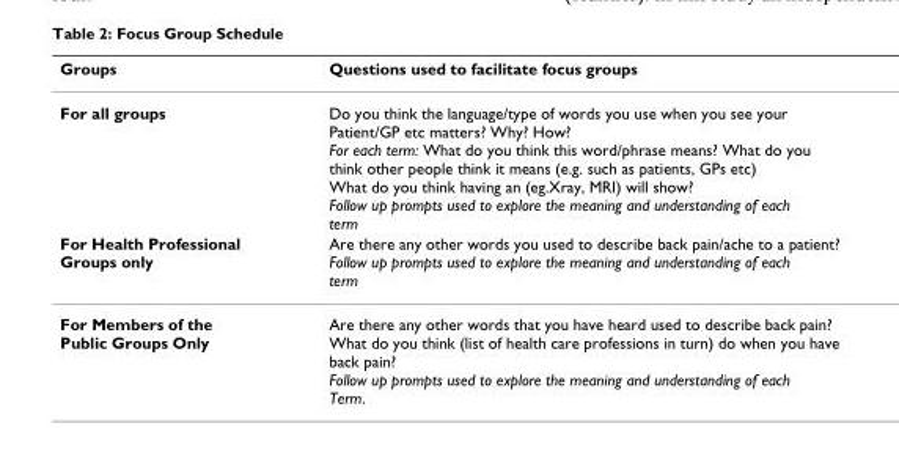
<table><thead><tr><td>Groups</td><td>Questions used to facilitate focus groups</td></tr></thead><tbody><tr><td>For all groups</td><td>Do you think the language/type of words you use when you see your Patient/GP etc matters? Why? How? For each term: What do you think this word/phrase means? What do you think other people think it means (e.g. such as patients, GPs etc) What do you think having an (eg.Xray, MRI) will show? Follow up prompts used to explore the meaning and understanding of each term</td></tr><tr><td>For Health Professional Groups only</td><td>Are there any other words you used to describe back pain/ache to a patient? Follow up prompts used to explore the meaning and understanding of each term</td></tr><tr><td>For Members of the Public Groups Only</td><td>Are there any other words that you have heard used to describe back pain? What do you think (list of health care professions in turn) do when you have back pain? Follow up prompts used to explore the meaning and understanding of each Term.</td></tr></tbody></table>